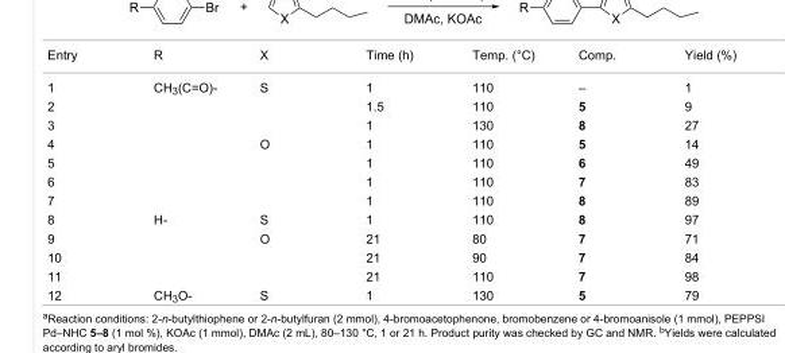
<table><tbody><tr><td>Entry</td><td>R</td><td>X</td><td>Time (h)</td><td>Temp. (°C)</td><td>Comp.</td><td>Yield (%)</td></tr><tr><td>1</td><td rowspan="7">CH<sub>3</sub>(C=O)-</td><td rowspan="3">S</td><td>1</td><td>110</td><td>–</td><td>1</td></tr><tr><td>2</td><td>1.5</td><td>110</td><td>5</td><td>9</td></tr><tr><td>3</td><td>1</td><td>130</td><td>8</td><td>27</td></tr><tr><td>4</td><td rowspan="4">O</td><td>1</td><td>110</td><td>5</td><td>14</td></tr><tr><td>5</td><td>1</td><td>110</td><td>6</td><td>49</td></tr><tr><td>6</td><td>1</td><td>110</td><td>7</td><td>83</td></tr><tr><td>7</td><td>1</td><td>110</td><td>8</td><td>89</td></tr><tr><td>8</td><td rowspan="4">H-</td><td>S</td><td>1</td><td>110</td><td>8</td><td>97</td></tr><tr><td>9</td><td rowspan="3">O</td><td>21</td><td>80</td><td>7</td><td>71</td></tr><tr><td>10</td><td>21</td><td>90</td><td>7</td><td>84</td></tr><tr><td>11</td><td>21</td><td>110</td><td>7</td><td>98</td></tr><tr><td>12</td><td>CH<sub>3</sub>O-</td><td>S</td><td>1</td><td>130</td><td>5</td><td>79</td></tr></tbody></table>